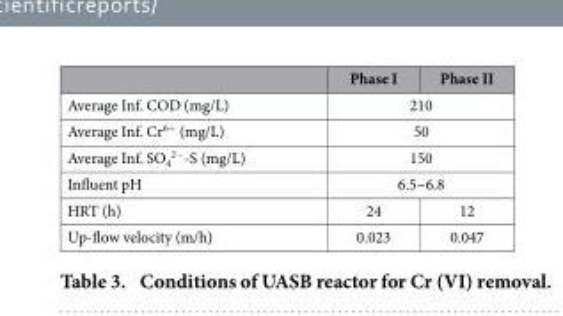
<table><thead><tr><td></td><td>Phase I</td><td>Phase II</td></tr></thead><tbody><tr><td>Average Inf. COD (mg/L)</td><td colspan="2">210</td></tr><tr><td>Average Inf. Cr<sup>6+</sup> (mg/L)</td><td colspan="2">50</td></tr><tr><td>Average Inf. SO<sub>4</sub> <sup>2−</sup>-S (mg/L)</td><td colspan="2">150</td></tr><tr><td>Influent pH</td><td colspan="2">6.5~6.8</td></tr><tr><td>HRT (h)</td><td>24</td><td>12</td></tr><tr><td>Up-flow velocity (m/h)</td><td>0.023</td><td>0.047</td></tr></tbody></table>